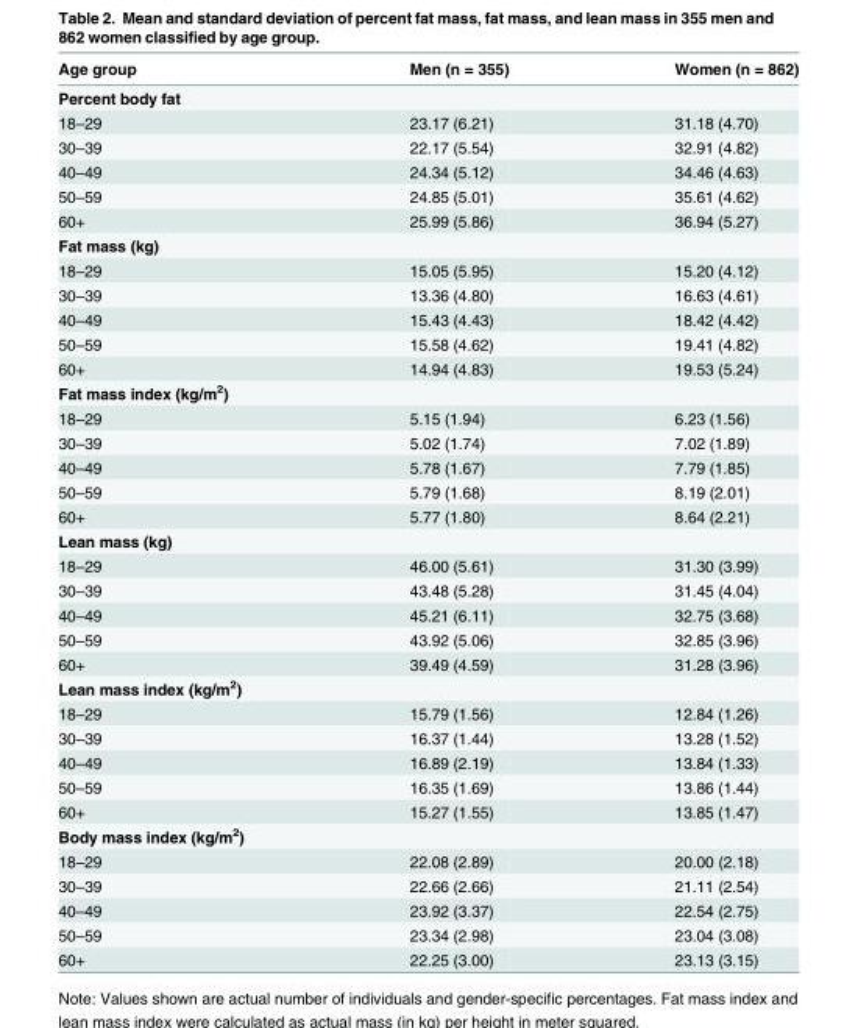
<table><thead><tr><td>Age group</td><td>Men (n = 355)</td><td>Women (n = 862)</td></tr></thead><tbody><tr><td colspan="3">Percent body fat</td></tr><tr><td>18–29</td><td>23.17 (6.21)</td><td>31.18 (4.70)</td></tr><tr><td>30–39</td><td>22.17 (5.54)</td><td>32.91 (4.82)</td></tr><tr><td>40–49</td><td>24.34 (5.12)</td><td>34.46 (4.63)</td></tr><tr><td>50–59</td><td>24.85 (5.01)</td><td>35.61 (4.62)</td></tr><tr><td>60+</td><td>25.99 (5.86)</td><td>36.94 (5.27)</td></tr><tr><td colspan="3">Fat mass (kg)</td></tr><tr><td>18–29</td><td>15.05 (5.95)</td><td>15.20 (4.12)</td></tr><tr><td>30–39</td><td>13.36 (4.80)</td><td>16.63 (4.61)</td></tr><tr><td>40–49</td><td>15.43 (4.43)</td><td>18.42 (4.42)</td></tr><tr><td>50–59</td><td>15.58 (4.62)</td><td>19.41 (4.82)</td></tr><tr><td>60+</td><td>14.94 (4.83)</td><td>19.53 (5.24)</td></tr><tr><td colspan="3">Fat mass index (kg/m<sup>2</sup>)</td></tr><tr><td>18–29</td><td>5.15 (1.94)</td><td>6.23 (1.56)</td></tr><tr><td>30–39</td><td>5.02 (1.74)</td><td>7.02 (1.89)</td></tr><tr><td>40–49</td><td>5.78 (1.67)</td><td>7.79 (1.85)</td></tr><tr><td>50–59</td><td>5.79 (1.68)</td><td>8.19 (2.01)</td></tr><tr><td>60+</td><td>5.77 (1.80)</td><td>8.64 (2.21)</td></tr><tr><td colspan="3">Lean mass (kg)</td></tr><tr><td>18–29</td><td>46.00 (5.61)</td><td>31.30 (3.99)</td></tr><tr><td>30–39</td><td>43.48 (5.28)</td><td>31.45 (4.04)</td></tr><tr><td>40–49</td><td>45.21 (6.11)</td><td>32.75 (3.68)</td></tr><tr><td>50–59</td><td>43.92 (5.06)</td><td>32.85 (3.96)</td></tr><tr><td>60+</td><td>39.49 (4.59)</td><td>31.28 (3.96)</td></tr><tr><td colspan="3">Lean mass index (kg/m<sup>2</sup>)</td></tr><tr><td>18–29</td><td>15.79 (1.56)</td><td>12.84 (1.26)</td></tr><tr><td>30–39</td><td>16.37 (1.44)</td><td>13.28 (1.52)</td></tr><tr><td>40–49</td><td>16.89 (2.19)</td><td>13.84 (1.33)</td></tr><tr><td>50–59</td><td>16.35 (1.69)</td><td>13.86 (1.44)</td></tr><tr><td>60+</td><td>15.27 (1.55)</td><td>13.85 (1.47)</td></tr><tr><td colspan="3">Body mass index (kg/m<sup>2</sup>)</td></tr><tr><td>18–29</td><td>22.08 (2.89)</td><td>20.00 (2.18)</td></tr><tr><td>30–39</td><td>22.66 (2.66)</td><td>21.11 (2.54)</td></tr><tr><td>40–49</td><td>23.92 (3.37)</td><td>22.54 (2.75)</td></tr><tr><td>50–59</td><td>23.34 (2.98)</td><td>23.04 (3.08)</td></tr><tr><td>60+</td><td>22.25 (3.00)</td><td>23.13 (3.15)</td></tr></tbody></table>